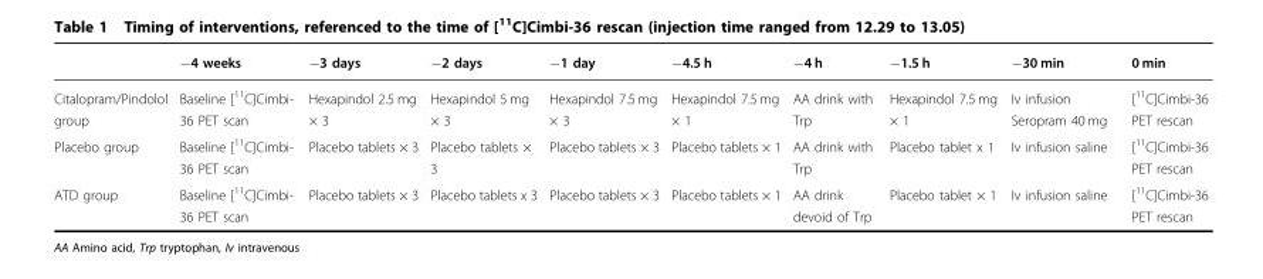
<table><thead><tr><td></td><td>−4 weeks</td><td>−3 days</td><td>−2 days</td><td>−1 day</td><td>−4.5 h</td><td>−4 h</td><td>−1.5 h</td><td>−30 min</td><td>0 min</td></tr></thead><tbody><tr><td>Citalopram/Pindolol group</td><td>Baseline [<sup>11</sup>C]Cimbi- 36 PET scan</td><td>Hexapindol 2.5 mg × 3</td><td>Hexapindol 5 mg × 3</td><td>Hexapindol 7.5 mg × 3</td><td>Hexapindol 7.5 mg × 1</td><td>AA drink with Trp</td><td>Hexapindol 7.5 mg × 1</td><td>Iv infusion Seropram 40 mg</td><td>[<sup>11</sup>C]Cimbi-36 PET rescan</td></tr><tr><td>Placebo group</td><td>Baseline [<sup>11</sup>C]Cimbi- 36 PET scan</td><td>Placebo tablets × 3</td><td>Placebo tablets × 3</td><td>Placebo tablets × 3</td><td>Placebo tablets × 1</td><td>AA drink with Trp</td><td>Placebo tablet x 1</td><td>Iv infusion saline</td><td>[<sup>11</sup>C]Cimbi-36 PET rescan</td></tr><tr><td>ATD group</td><td>Baseline [<sup>11</sup>C]Cimbi- 36 PET scan</td><td>Placebo tablets × 3</td><td>Placebo tablets x 3</td><td>Placebo tablets × 3</td><td>Placebo tablets × 1</td><td>AA drink devoid of Trp</td><td>Placebo tablet × 1</td><td>Iv infusion saline</td><td>[<sup>11</sup>C]Cimbi-36 PET rescan</td></tr></tbody></table>